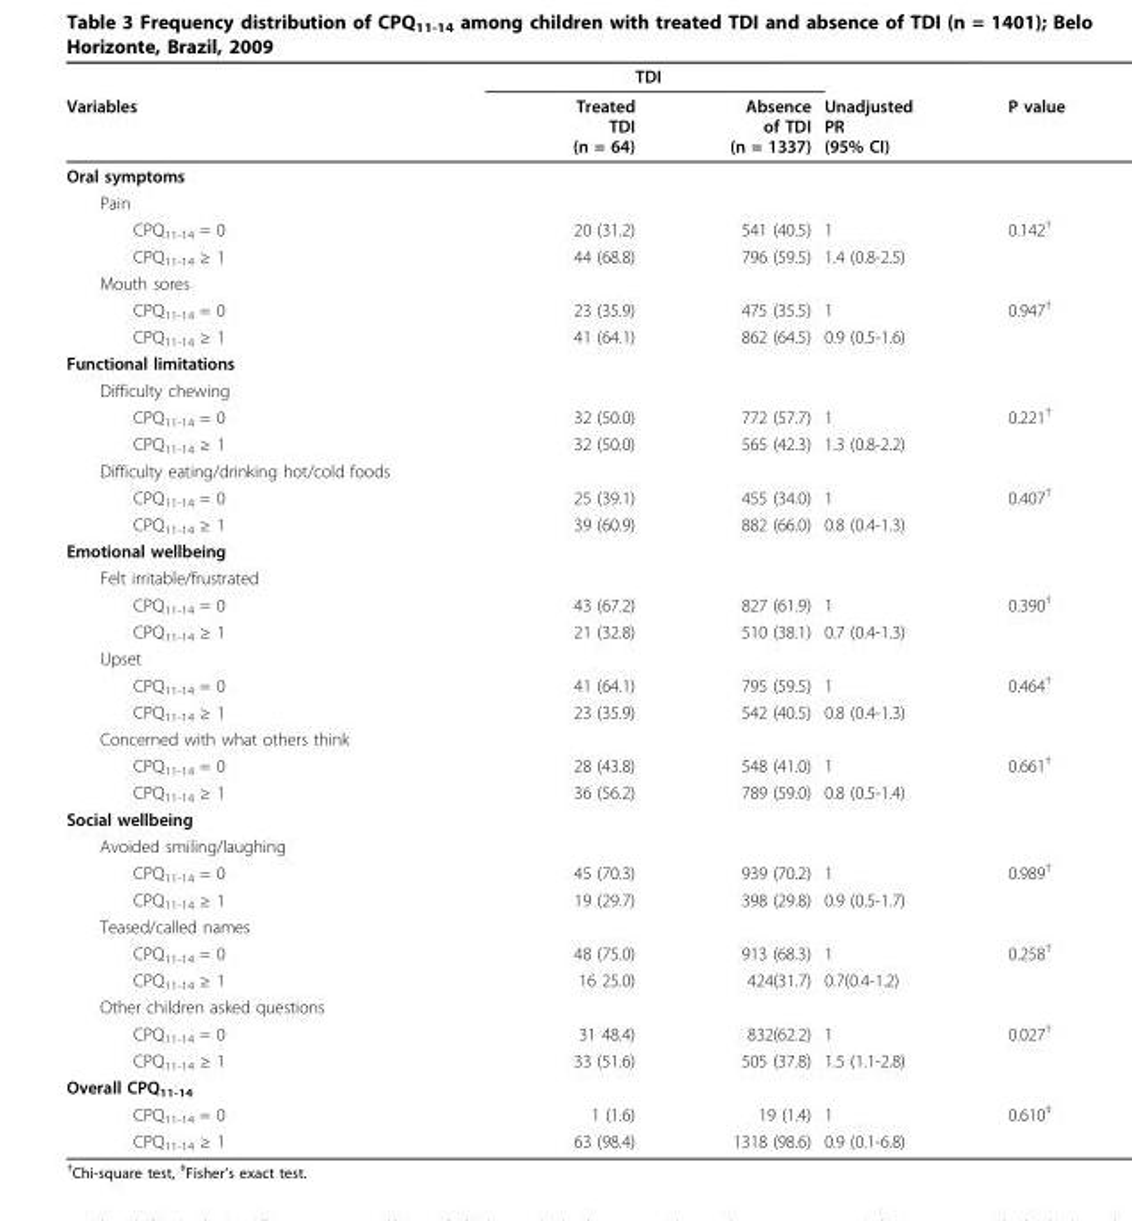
<table><thead><tr><td rowspan="2">Variables</td><td colspan="2">TDI</td><td rowspan="2">Unadjusted PR (95% CI)</td><td rowspan="2">P value</td></tr><tr><td>Treated TDI (n = 64)</td><td>Absence of TDI (n = 1337)</td></tr></thead><tbody><tr><td colspan="5">Oral symptoms</td></tr><tr><td colspan="5">Pain</td></tr><tr><td>CPQ<sub>11-14</sub> = 0</td><td>20 (31.2)</td><td>541 (40.5)</td><td>1</td><td>0.142<sup>†</sup></td></tr><tr><td>CPQ<sub>11-14</sub> ≥ 1</td><td>44 (68.8)</td><td>796 (59.5)</td><td>1.4 (0.8-2.5)</td><td></td></tr><tr><td colspan="5">Mouth sores</td></tr><tr><td>CPQ<sub>11-14</sub> = 0</td><td>23 (35.9)</td><td>475 (35.5)</td><td>1</td><td>0.947<sup>†</sup></td></tr><tr><td>CPQ<sub>11-14</sub> ≥ 1</td><td>41 (64.1)</td><td>862 (64.5)</td><td>0.9 (0.5-1.6)</td><td></td></tr><tr><td colspan="5">Functional limitations</td></tr><tr><td colspan="5">Difficulty chewing</td></tr><tr><td>CPQ<sub>11-14</sub> = 0</td><td>32 (50.0)</td><td>772 (57.7)</td><td>1</td><td>0.221<sup>†</sup></td></tr><tr><td>CPQ<sub>11-14</sub> ≥ 1</td><td>32 (50.0)</td><td>565 (42.3)</td><td>1.3 (0.8-2.2)</td><td></td></tr><tr><td colspan="5">Difficulty eating/drinking hot/cold foods</td></tr><tr><td>CPQ<sub>11-14</sub> = 0</td><td>25 (39.1)</td><td>455 (34.0)</td><td>1</td><td>0.407<sup>†</sup></td></tr><tr><td>CPQ<sub>11-14</sub> ≥ 1</td><td>39 (60.9)</td><td>882 (66.0)</td><td>0.8 (0.4-1.3)</td><td></td></tr><tr><td colspan="5">Emotional wellbeing</td></tr><tr><td colspan="5">Felt irritable/frustrated</td></tr><tr><td>CPQ<sub>11-14</sub> = 0</td><td>43 (67.2)</td><td>827 (61.9)</td><td>1</td><td>0.390<sup>†</sup></td></tr><tr><td>CPQ<sub>11-14</sub> ≥ 1</td><td>21 (32.8)</td><td>510 (38.1)</td><td>0.7 (0.4-1.3)</td><td></td></tr><tr><td colspan="5">Upset</td></tr><tr><td>CPQ<sub>11-14</sub> = 0</td><td>41 (64.1)</td><td>795 (59.5)</td><td>1</td><td>0.464<sup>†</sup></td></tr><tr><td>CPQ<sub>11-14</sub> ≥ 1</td><td>23 (35.9)</td><td>542 (40.5)</td><td>0.8 (0.4-1.3)</td><td></td></tr><tr><td colspan="5">Concerned with what others think</td></tr><tr><td>CPQ<sub>11-14</sub> = 0</td><td>28 (43.8)</td><td>548 (41.0)</td><td>1</td><td>0.661<sup>†</sup></td></tr><tr><td>CPQ<sub>11-14</sub> ≥ 1</td><td>36 (56.2)</td><td>789 (59.0)</td><td>0.8 (0.5-1.4)</td><td></td></tr><tr><td colspan="5">Social wellbeing</td></tr><tr><td colspan="5">Avoided smiling/laughing</td></tr><tr><td>CPQ<sub>11-14</sub> = 0</td><td>45 (70.3)</td><td>939 (70.2)</td><td>1</td><td>0.989<sup>†</sup></td></tr><tr><td>CPQ<sub>11-14</sub> ≥ 1</td><td>19 (29.7)</td><td>398 (29.8)</td><td>0.9 (0.5-1.7)</td><td></td></tr><tr><td colspan="5">Teased/called names</td></tr><tr><td>CPQ<sub>11-14</sub> = 0</td><td>48 (75.0)</td><td>913 (68.3)</td><td>1</td><td>0.258<sup>†</sup></td></tr><tr><td>CPQ<sub>11-14</sub> ≥ 1</td><td>16 25.0)</td><td>424(31.7)</td><td>0.7(0.4-1.2)</td><td></td></tr><tr><td colspan="5">Other children asked questions</td></tr><tr><td>CPQ<sub>11-14</sub> = 0</td><td>31 48.4)</td><td>832(62.2)</td><td>1</td><td>0.027<sup>†</sup></td></tr><tr><td>CPQ<sub>11-14</sub> ≥ 1</td><td>33 (51.6)</td><td>505 (37.8)</td><td>1.5 (1.1-2.8)</td><td></td></tr><tr><td colspan="5">Overall CPQ<sub>11-14</sub></td></tr><tr><td>CPQ<sub>11-14</sub> = 0</td><td>1 (1.6)</td><td>19 (1.4)</td><td>1</td><td>0.610<sup>‡</sup></td></tr><tr><td>CPQ<sub>11-14</sub> ≥ 1</td><td>63 (98.4)</td><td>1318 (98.6)</td><td>0.9 (0.1-6.8)</td><td></td></tr></tbody></table>